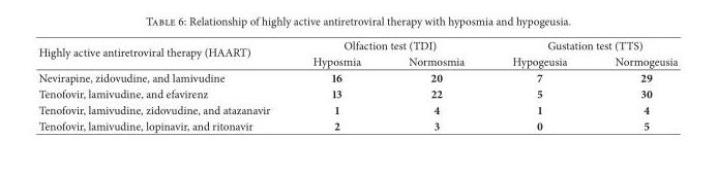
<table><thead><tr><td rowspan="2">Highly active antiretroviral therapy (HAART)</td><td colspan="2">Olfaction test (TDI)</td><td colspan="2">Gustation test (TTS)</td></tr><tr><td>Hyposmia</td><td>Normosmia</td><td>Hypogeusia</td><td>Normogeusia</td></tr></thead><tbody><tr><td>Nevirapine, zidovudine, and lamivudine</td><td>16</td><td>20</td><td>7</td><td>29</td></tr><tr><td>Tenofovir, lamivudine, and efavirenz</td><td>13</td><td>22</td><td>5</td><td>30</td></tr><tr><td>Tenofovir, lamivudine, zidovudine, and atazanavir</td><td>1</td><td>4</td><td>1</td><td>4</td></tr><tr><td>Tenofovir, lamivudine, lopinavir, and ritonavir</td><td>2</td><td>3</td><td>0</td><td>5</td></tr></tbody></table>